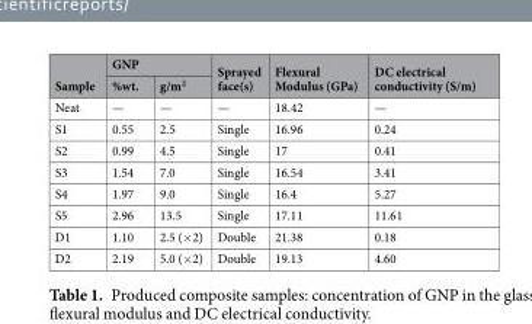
<table><thead><tr><td rowspan="2">Sample</td><td colspan="2">GNP</td><td rowspan="2">Sprayed face(s)</td><td rowspan="2">Flexural Modulus (GPa)</td><td rowspan="2">DC electrical conductivity (S/m)</td></tr><tr><td>%wt.</td><td>g/m<sup>2</sup></td></tr></thead><tbody><tr><td>Neat</td><td>—</td><td>—</td><td>—</td><td>18.42</td><td>—</td></tr><tr><td>S1</td><td>0.55</td><td>2.5</td><td>Single</td><td>16.96</td><td>0.24</td></tr><tr><td>S2</td><td>0.99</td><td>4.5</td><td>Single</td><td>17</td><td>0.41</td></tr><tr><td>S3</td><td>1.54</td><td>7.0</td><td>Single</td><td>16.54</td><td>3.41</td></tr><tr><td>S4</td><td>1.97</td><td>9.0</td><td>Single</td><td>16.4</td><td>5.27</td></tr><tr><td>S5</td><td>2.96</td><td>13.5</td><td>Single</td><td>17.11</td><td>11.61</td></tr><tr><td>D1</td><td>1.10</td><td>2.5 (×2)</td><td>Double</td><td>21.38</td><td>0.18</td></tr><tr><td>D2</td><td>2.19</td><td>5.0 (×2)</td><td>Double</td><td>19.13</td><td>4.60</td></tr></tbody></table>